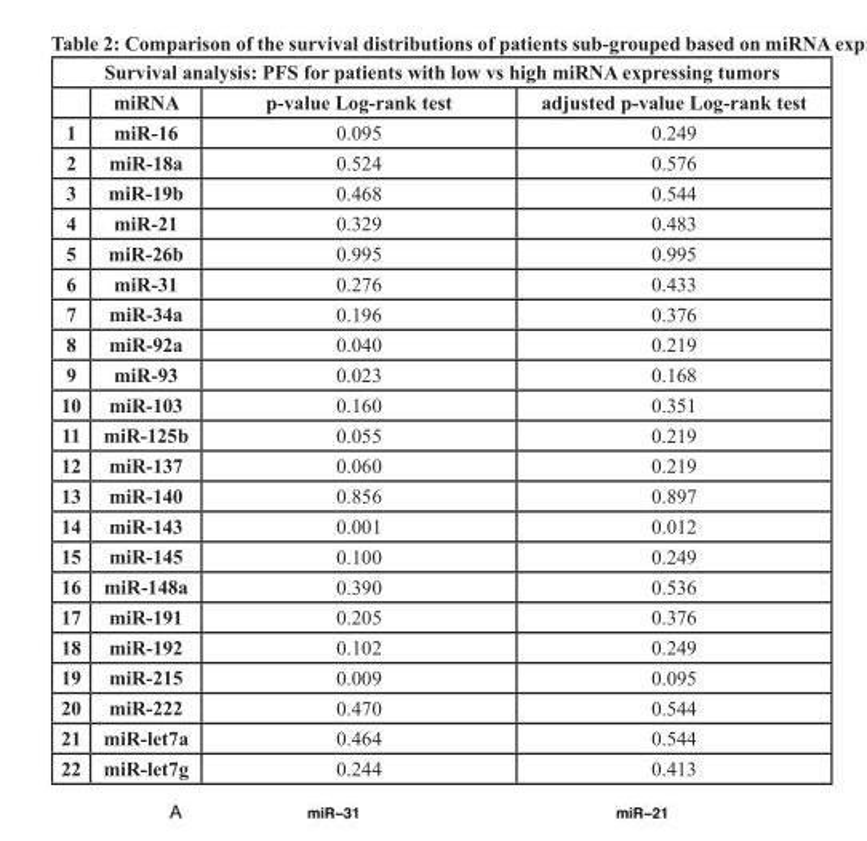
<table><thead><tr><td colspan="4">Survival analysis: PFS for patients with low vs high miRNA expressing tumors</td></tr><tr><td></td><td>miRNA</td><td>p-value Log-rank test</td><td>adjusted p-value Log-rank test</td></tr></thead><tbody><tr><td>1</td><td>miR-16</td><td>0.095</td><td>0.249</td></tr><tr><td>2</td><td>miR-18a</td><td>0.524</td><td>0.576</td></tr><tr><td>3</td><td>miR-19b</td><td>0.468</td><td>0.544</td></tr><tr><td>4</td><td>miR-21</td><td>0.329</td><td>0.483</td></tr><tr><td>5</td><td>miR-26b</td><td>0.995</td><td>0.995</td></tr><tr><td>6</td><td>miR-31</td><td>0.276</td><td>0.433</td></tr><tr><td>7</td><td>miR-34a</td><td>0.196</td><td>0.376</td></tr><tr><td>8</td><td>miR-92a</td><td>0.040</td><td>0.219</td></tr><tr><td>9</td><td>miR-93</td><td>0.023</td><td>0.168</td></tr><tr><td>10</td><td>miR-103</td><td>0.160</td><td>0.351</td></tr><tr><td>11</td><td>miR-125b</td><td>0.055</td><td>0.219</td></tr><tr><td>12</td><td>miR-137</td><td>0.060</td><td>0.219</td></tr><tr><td>13</td><td>miR-140</td><td>0.856</td><td>0.897</td></tr><tr><td>14</td><td>miR-143</td><td>0.001</td><td>0.012</td></tr><tr><td>15</td><td>miR-145</td><td>0.100</td><td>0.249</td></tr><tr><td>16</td><td>miR-148a</td><td>0.390</td><td>0.536</td></tr><tr><td>17</td><td>miR-191</td><td>0.205</td><td>0.376</td></tr><tr><td>18</td><td>miR-192</td><td>0.102</td><td>0.249</td></tr><tr><td>19</td><td>miR-215</td><td>0.009</td><td>0.095</td></tr><tr><td>20</td><td>miR-222</td><td>0.470</td><td>0.544</td></tr><tr><td>21</td><td>miR-let7a</td><td>0.464</td><td>0.544</td></tr><tr><td>22</td><td>miR-let7g</td><td>0.244</td><td>0.413</td></tr></tbody></table>